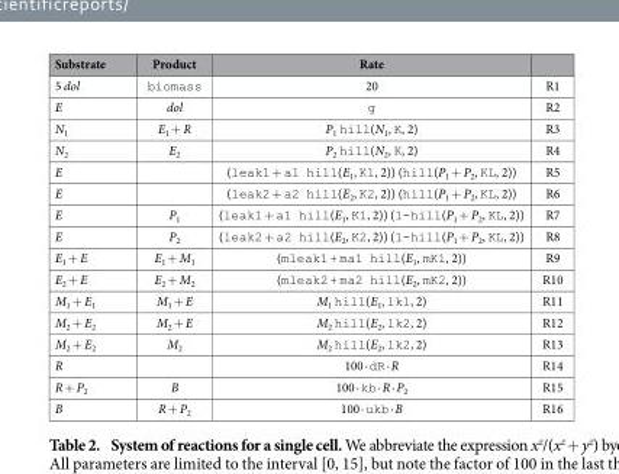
<table><thead><tr><td>Substrate</td><td>Product</td><td>Rate</td><td></td></tr></thead><tbody><tr><td>5 dol</td><td>biomass</td><td>20</td><td>R1</td></tr><tr><td>E</td><td>dol</td><td>g</td><td>R2</td></tr><tr><td>N<sub>1</sub></td><td>E<sub>1</sub> + R</td><td>P<sub>1</sub> hill(N<sub>1</sub>, K, 2)</td><td>R3</td></tr><tr><td>N<sub>2</sub></td><td>E<sub>2</sub></td><td>P<sub>2</sub> hill(N<sub>2</sub>, K, 2)</td><td>R4</td></tr><tr><td>E</td><td></td><td>(leak1 + a1 hill(E<sub>1</sub>, K1, 2)) (hill(P<sub>1</sub> + P<sub>2</sub>, KL, 2))</td><td>R5</td></tr><tr><td>E</td><td></td><td>(leak2 + a2 hill(E<sub>2</sub>, K2, 2)) (hill(P<sub>1</sub> + P<sub>2</sub>, KL, 2))</td><td>R6</td></tr><tr><td>E</td><td>P<sub>1</sub></td><td>(leak1 + a1 hill(E<sub>1</sub>, K1, 2)) (1-hill(P<sub>1</sub> + P<sub>2</sub>, KL, 2))</td><td>R7</td></tr><tr><td>E</td><td>P<sub>2</sub></td><td>(leak2 + a2 hill(E<sub>2</sub>, K2, 2)) (1-hill(P<sub>1</sub> + P<sub>2</sub>, KL, 2))</td><td>R8</td></tr><tr><td>E<sub>1</sub> + E</td><td>E<sub>1</sub> + M<sub>1</sub></td><td>(mleak1 + ma1 hill(E<sub>1</sub>, mK1, 2))</td><td>R9</td></tr><tr><td>E<sub>2</sub> + E</td><td>E<sub>2</sub> + M<sub>2</sub></td><td>(mleak2 + ma2 hill(E<sub>2</sub>, mK2, 2))</td><td>R10</td></tr><tr><td>M<sub>1</sub> + E<sub>1</sub></td><td>M<sub>1</sub> + E</td><td>M<sub>1</sub> hill(E<sub>1</sub>, lk1, 2)</td><td>R11</td></tr><tr><td>M<sub>2</sub> + E<sub>2</sub></td><td>M<sub>2</sub> + E</td><td>M<sub>2</sub> hill(E<sub>2</sub>, lk2, 2)</td><td>R12</td></tr><tr><td>M<sub>2</sub> + E<sub>2</sub></td><td>M<sub>2</sub></td><td>M<sub>2</sub> hill(E<sub>2</sub>, lk2, 2)</td><td>R13</td></tr><tr><td>R</td><td></td><td>100 · dR · R</td><td>R14</td></tr><tr><td>R + P<sub>2</sub></td><td>B</td><td>100 · kb · R · P<sub>2</sub></td><td>R15</td></tr><tr><td>B</td><td>R + P<sub>2</sub></td><td>100 · ukb · B</td><td>R16</td></tr></tbody></table>